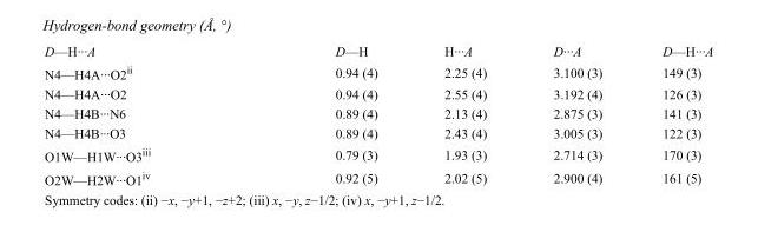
<table><tbody><tr><td>D—H···A</td><td>D—H</td><td>H···A</td><td>D···A</td><td>D—H···A</td></tr><tr><td>N4—H4A···O2<sup>ii</sup></td><td>0.94 (4)</td><td>2.25 (4)</td><td>3.100 (3)</td><td>149 (3)</td></tr><tr><td>N4—H4A···O2</td><td>0.94 (4)</td><td>2.55 (4)</td><td>3.192 (4)</td><td>126 (3)</td></tr><tr><td>N4—H4B···N6</td><td>0.89 (4)</td><td>2.13 (4)</td><td>2.875 (3)</td><td>141 (3)</td></tr><tr><td>N4—H4B···O3</td><td>0.89 (4)</td><td>2.43 (4)</td><td>3.005 (3)</td><td>122 (3)</td></tr><tr><td>O1W—H1W···O3<sup>iii</sup></td><td>0.79 (3)</td><td>1.93 (3)</td><td>2.714 (3)</td><td>170 (3)</td></tr><tr><td>O2W—H2W···O1<sup>iv</sup></td><td>0.92 (5)</td><td>2.02 (5)</td><td>2.900 (4)</td><td>161 (5)</td></tr></tbody></table>